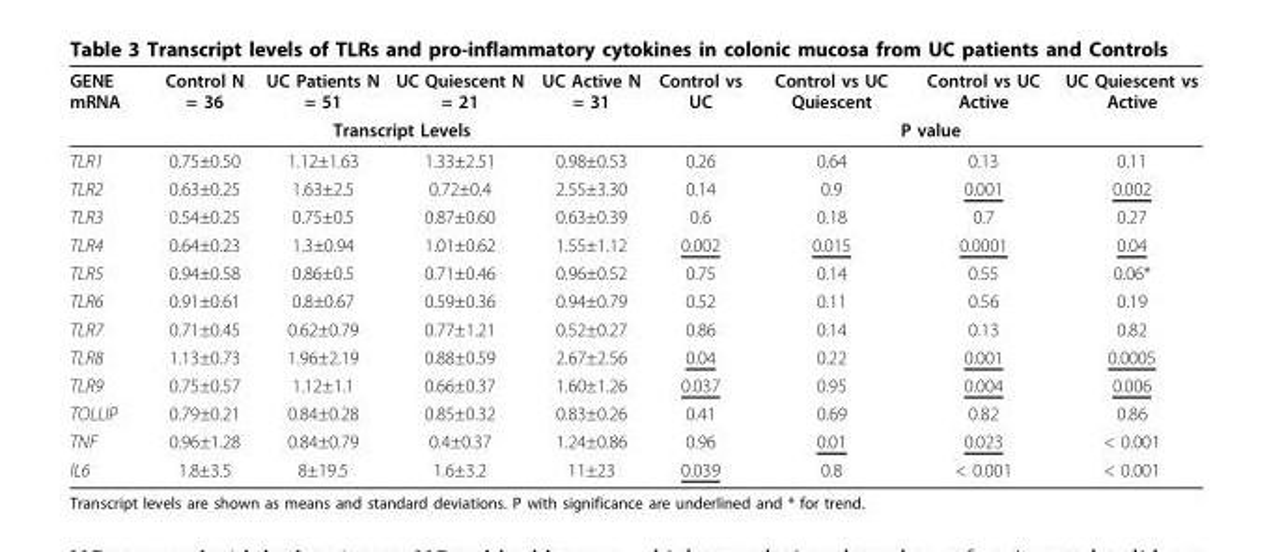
<table><thead><tr><td rowspan="2">GENE mRNA</td><td>Control N = 36</td><td>UC Patients N = 51</td><td>UC Quiescent N = 21</td><td>UC Active N = 31</td><td>Control vs UC</td><td>Control vs UC Quiescent</td><td>Control vs UC Active</td><td>UC Quiescent vs Active</td></tr><tr><td colspan="4">Transcript Levels</td><td colspan="4">P value</td></tr></thead><tbody><tr><td>TLR1</td><td>0.75±0.50</td><td>1.12±1.63</td><td>1.33±2.51</td><td>0.98±0.53</td><td>0.26</td><td>0.64</td><td>0.13</td><td>0.11</td></tr><tr><td>TLR2</td><td>0.63±0.25</td><td>1.63±2.5</td><td>0.72±0.4</td><td>2.55±3.30</td><td>0.14</td><td>0.9</td><td>0.001</td><td>0.002</td></tr><tr><td>TLR3</td><td>0.54±0.25</td><td>0.75±0.5</td><td>0.87±0.60</td><td>0.63±0.39</td><td>0.6</td><td>0.18</td><td>0.7</td><td>0.27</td></tr><tr><td>TLR4</td><td>0.64±0.23</td><td>1.3±0.94</td><td>1.01±0.62</td><td>1.55±1.12</td><td>0.002</td><td>0.015</td><td>0.0001</td><td>0.04</td></tr><tr><td>TLR5</td><td>0.94±0.58</td><td>0.86±0.5</td><td>0.71±0.46</td><td>0.96±0.52</td><td>0.75</td><td>0.14</td><td>0.55</td><td>0.06*</td></tr><tr><td>TLR6</td><td>0.91±0.61</td><td>0.8±0.67</td><td>0.59±0.36</td><td>0.94±0.79</td><td>0.52</td><td>0.11</td><td>0.56</td><td>0.19</td></tr><tr><td>TLR7</td><td>0.71±0.45</td><td>0.62±0.79</td><td>0.77±1.21</td><td>0.52±0.27</td><td>0.86</td><td>0.14</td><td>0.13</td><td>0.82</td></tr><tr><td>TLR8</td><td>1.13±0.73</td><td>1.96±2.19</td><td>0.88±0.59</td><td>2.67±2.56</td><td>0.04</td><td>0.22</td><td>0.001</td><td>0.0005</td></tr><tr><td>TLR9</td><td>0.75±0.57</td><td>1.12±1.1</td><td>0.66±0.37</td><td>1.60±1.26</td><td>0.037</td><td>0.95</td><td>0.004</td><td>0.006</td></tr><tr><td>TOLLIP</td><td>0.79±0.21</td><td>0.84±0.28</td><td>0.85±0.32</td><td>0.83±0.26</td><td>0.41</td><td>0.69</td><td>0.82</td><td>0.86</td></tr><tr><td>TNF</td><td>0.96±1.28</td><td>0.84±0.79</td><td>0.4±0.37</td><td>1.24±0.86</td><td>0.96</td><td>0.01</td><td>0.023</td><td>&lt; 0.001</td></tr><tr><td>IL6</td><td>1.8±3.5</td><td>8±19.5</td><td>1.6±3.2</td><td>11±23</td><td>0.039</td><td>0.8</td><td>&lt; 0.001</td><td>&lt; 0.001</td></tr></tbody></table>